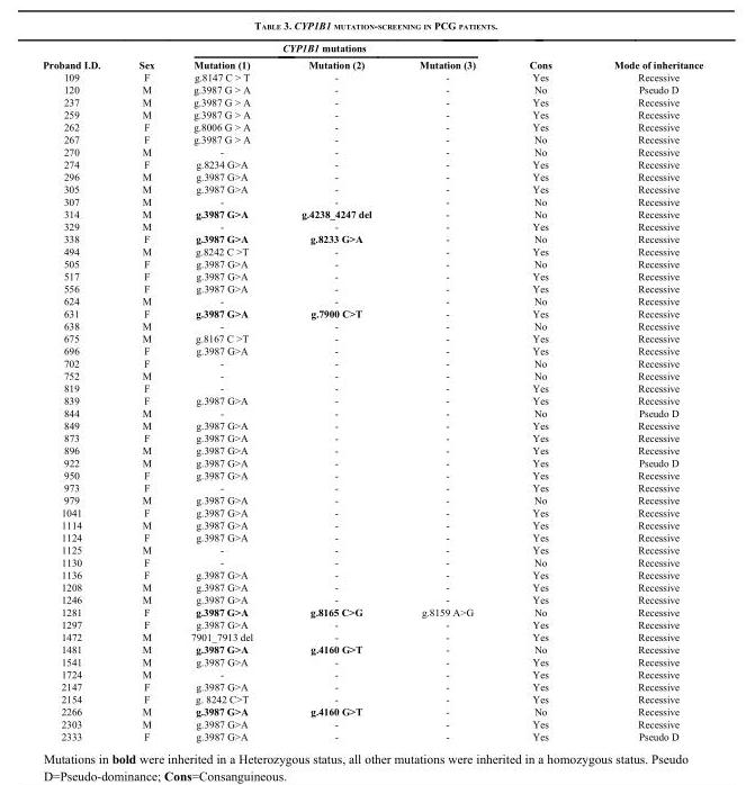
<table><thead><tr><td rowspan="2">Proband I.D.</td><td rowspan="2">Sex</td><td colspan="3">CYP1B1 mutations</td><td rowspan="2">Cons</td><td rowspan="2">Mode of inheritance</td></tr><tr><td>Mutation (1)</td><td>Mutation (2)</td><td>Mutation (3)</td></tr></thead><tbody><tr><td>109</td><td>F</td><td>g.8147 C &gt; T</td><td>-</td><td>-</td><td>Yes</td><td>Recessive</td></tr><tr><td>120</td><td>M</td><td>g.3987 G &gt; A</td><td>-</td><td>-</td><td>No</td><td>Pseudo D</td></tr><tr><td>237</td><td>M</td><td>g.3987 G &gt; A</td><td>-</td><td>-</td><td>Yes</td><td>Recessive</td></tr><tr><td>259</td><td>M</td><td>g.3987 G &gt; A</td><td>-</td><td>-</td><td>Yes</td><td>Recessive</td></tr><tr><td>262</td><td>F</td><td>g.8006 G &gt; A</td><td>-</td><td>-</td><td>Yes</td><td>Recessive</td></tr><tr><td>267</td><td>F</td><td>g.3987 G &gt; A</td><td>-</td><td>-</td><td>No</td><td>Recessive</td></tr><tr><td>270</td><td>M</td><td>-</td><td>-</td><td>-</td><td>No</td><td>Recessive</td></tr><tr><td>274</td><td>F</td><td>g.8234 G&gt;A</td><td>-</td><td>-</td><td>Yes</td><td>Recessive</td></tr><tr><td>296</td><td>M</td><td>g.3987 G&gt;A</td><td>-</td><td>-</td><td>Yes</td><td>Recessive</td></tr><tr><td>305</td><td>M</td><td>g.3987 G&gt;A</td><td>-</td><td>-</td><td>Yes</td><td>Recessive</td></tr><tr><td>307</td><td>M</td><td>-</td><td>-</td><td>-</td><td>No</td><td>Recessive</td></tr><tr><td>314</td><td>M</td><td>g.3987 G&gt;A</td><td>g.4238_4247 del</td><td>-</td><td>No</td><td>Recessive</td></tr><tr><td>329</td><td>M</td><td>-</td><td>-</td><td>-</td><td>Yes</td><td>Recessive</td></tr><tr><td>338</td><td>F</td><td>g.3987 G&gt;A</td><td>g.8233 G&gt;A</td><td>-</td><td>No</td><td>Recessive</td></tr><tr><td>494</td><td>M</td><td>g.8242 C &gt;T</td><td>-</td><td>-</td><td>Yes</td><td>Recessive</td></tr><tr><td>505</td><td>F</td><td>g.3987 G&gt;A</td><td>-</td><td>-</td><td>No</td><td>Recessive</td></tr><tr><td>517</td><td>F</td><td>g.3987 G&gt;A</td><td>-</td><td>-</td><td>Yes</td><td>Recessive</td></tr><tr><td>556</td><td>F</td><td>g.3987 G&gt;A</td><td>-</td><td>-</td><td>Yes</td><td>Recessive</td></tr><tr><td>624</td><td>M</td><td>-</td><td>-</td><td>-</td><td>No</td><td>Recessive</td></tr><tr><td>631</td><td>F</td><td>g.3987 G&gt;A</td><td>g.7900 C&gt;T</td><td>-</td><td>Yes</td><td>Recessive</td></tr><tr><td>638</td><td>M</td><td>-</td><td>-</td><td>-</td><td>No</td><td>Recessive</td></tr><tr><td>675</td><td>M</td><td>g.8167 C &gt;T</td><td>-</td><td>-</td><td>Yes</td><td>Recessive</td></tr><tr><td>696</td><td>F</td><td>g.3987 G&gt;A</td><td>-</td><td>-</td><td>Yes</td><td>Recessive</td></tr><tr><td>702</td><td>F</td><td>-</td><td>-</td><td>-</td><td>No</td><td>Recessive</td></tr><tr><td>752</td><td>M</td><td>-</td><td>-</td><td>-</td><td>No</td><td>Recessive</td></tr><tr><td>819</td><td>F</td><td>-</td><td>-</td><td>-</td><td>Yes</td><td>Recessive</td></tr><tr><td>839</td><td>F</td><td>g.3987 G&gt;A</td><td>-</td><td>-</td><td>Yes</td><td>Recessive</td></tr><tr><td>844</td><td>M</td><td>-</td><td>-</td><td>-</td><td>No</td><td>Pseudo D</td></tr><tr><td>849</td><td>M</td><td>g.3987 G&gt;A</td><td>-</td><td>-</td><td>Yes</td><td>Recessive</td></tr><tr><td>873</td><td>F</td><td>g.3987 G&gt;A</td><td>-</td><td>-</td><td>Yes</td><td>Recessive</td></tr><tr><td>896</td><td>M</td><td>g.3987 G&gt;A</td><td>-</td><td>-</td><td>Yes</td><td>Recessive</td></tr><tr><td>922</td><td>M</td><td>g.3987 G&gt;A</td><td>-</td><td>-</td><td>Yes</td><td>Pseudo D</td></tr><tr><td>950</td><td>F</td><td>g.3987 G&gt;A</td><td>-</td><td>-</td><td>Yes</td><td>Recessive</td></tr><tr><td>973</td><td>F</td><td>-</td><td>-</td><td>-</td><td>Yes</td><td>Recessive</td></tr><tr><td>979</td><td>M</td><td>g.3987 G&gt;A</td><td>-</td><td>-</td><td>No</td><td>Recessive</td></tr><tr><td>1041</td><td>F</td><td>g.3987 G&gt;A</td><td>-</td><td>-</td><td>Yes</td><td>Recessive</td></tr><tr><td>1114</td><td>M</td><td>g.3987 G&gt;A</td><td>-</td><td>-</td><td>Yes</td><td>Recessive</td></tr><tr><td>1124</td><td>F</td><td>g.3987 G&gt;A</td><td>-</td><td>-</td><td>Yes</td><td>Recessive</td></tr><tr><td>1125</td><td>M</td><td>-</td><td>-</td><td>-</td><td>Yes</td><td>Recessive</td></tr><tr><td>1130</td><td>F</td><td>-</td><td>-</td><td>-</td><td>No</td><td>Recessive</td></tr><tr><td>1136</td><td>F</td><td>g.3987 G&gt;A</td><td>-</td><td>-</td><td>Yes</td><td>Recessive</td></tr><tr><td>1208</td><td>M</td><td>g.3987 G&gt;A</td><td>-</td><td>-</td><td>Yes</td><td>Recessive</td></tr><tr><td>1246</td><td>M</td><td>g.3987 G&gt;A</td><td>-</td><td>-</td><td>Yes</td><td>Recessive</td></tr><tr><td>1281</td><td>F</td><td>g.3987 G&gt;A</td><td>g.8165 C&gt;G</td><td>g.8159 A&gt;G</td><td>No</td><td>Recessive</td></tr><tr><td>1297</td><td>F</td><td>g.3987 G&gt;A</td><td>-</td><td>-</td><td>Yes</td><td>Recessive</td></tr><tr><td>1472</td><td>M</td><td>7901_7913 del</td><td>-</td><td>-</td><td>Yes</td><td>Recessive</td></tr><tr><td>1481</td><td>M</td><td>g.3987 G&gt;A</td><td>g.4160 G&gt;T</td><td>-</td><td>No</td><td>Recessive</td></tr><tr><td>1541</td><td>M</td><td>g.3987 G&gt;A</td><td>-</td><td>-</td><td>Yes</td><td>Recessive</td></tr><tr><td>1724</td><td>M</td><td>-</td><td>-</td><td>-</td><td>Yes</td><td>Recessive</td></tr><tr><td>2147</td><td>F</td><td>g.3987 G&gt;A</td><td>-</td><td>-</td><td>Yes</td><td>Recessive</td></tr><tr><td>2154</td><td>F</td><td>g. 8242 C&gt;T</td><td>-</td><td>-</td><td>Yes</td><td>Recessive</td></tr><tr><td>2266</td><td>M</td><td>g.3987 G&gt;A</td><td>g.4160 G&gt;T</td><td>-</td><td>No</td><td>Recessive</td></tr><tr><td>2303</td><td>M</td><td>g.3987 G&gt;A</td><td>-</td><td>-</td><td>Yes</td><td>Recessive</td></tr><tr><td>2333</td><td>F</td><td>g.3987 G&gt;A</td><td>-</td><td>-</td><td>Yes</td><td>Pseudo D</td></tr></tbody></table>